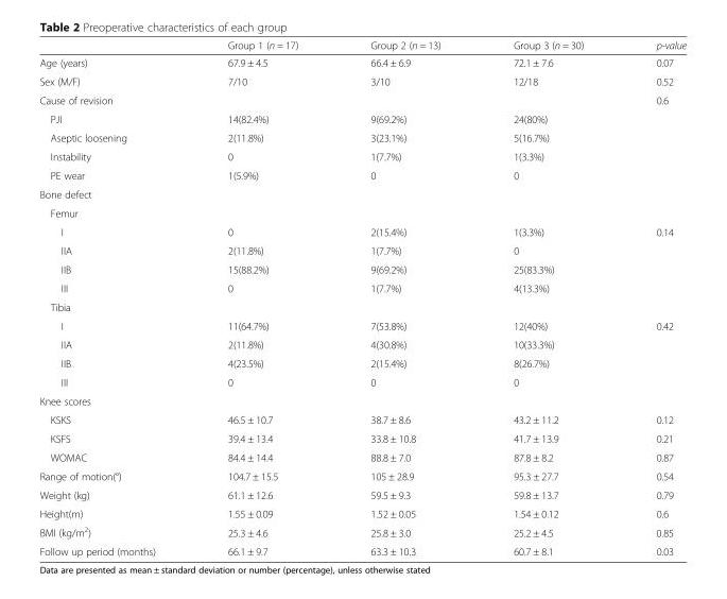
<table><thead><tr><td></td><td>Group 1 (n = 17)</td><td>Group 2 (n = 13)</td><td>Group 3 (n = 30)</td><td>p-value</td></tr></thead><tbody><tr><td>Age (years)</td><td>67.9 ± 4.5</td><td>66.4 ± 6.9</td><td>72.1 ± 7.6</td><td>0.07</td></tr><tr><td>Sex (M/F)</td><td>7/10</td><td>3/10</td><td>12/18</td><td>0.52</td></tr><tr><td colspan="4">Cause of revision</td><td rowspan="5">0.6</td></tr><tr><td>PJI</td><td>14(82.4%)</td><td>9(69.2%)</td><td>24(80%)</td></tr><tr><td>Aseptic loosening</td><td>2(11.8%)</td><td>3(23.1%)</td><td>5(16.7%)</td></tr><tr><td>Instability</td><td>0</td><td>1(7.7%)</td><td>1(3.3%)</td></tr><tr><td>PE wear</td><td>1(5.9%)</td><td>0</td><td>0</td></tr><tr><td colspan="5">Bone defect</td></tr><tr><td colspan="5">Femur</td></tr><tr><td>I</td><td>0</td><td>2(15.4%)</td><td>1(3.3%)</td><td rowspan="4">0.14</td></tr><tr><td>IIA</td><td>2(11.8%)</td><td>1(7.7%)</td><td>0</td></tr><tr><td>IIB</td><td>15(88.2%)</td><td>9(69.2%)</td><td>25(83.3%)</td></tr><tr><td>III</td><td>0</td><td>1(7.7%)</td><td>4(13.3%)</td></tr><tr><td colspan="5">Tibia</td></tr><tr><td>I</td><td>11(64.7%)</td><td>7(53.8%)</td><td>12(40%)</td><td rowspan="4">0.42</td></tr><tr><td>IIA</td><td>2(11.8%)</td><td>4(30.8%)</td><td>10(33.3%)</td></tr><tr><td>IIB</td><td>4(23.5%)</td><td>2(15.4%)</td><td>8(26.7%)</td></tr><tr><td>III</td><td>0</td><td>0</td><td>0</td></tr><tr><td colspan="5">Knee scores</td></tr><tr><td>KSKS</td><td>46.5 ± 10.7</td><td>38.7 ± 8.6</td><td>43.2 ± 11.2</td><td>0.12</td></tr><tr><td>KSFS</td><td>39.4 ± 13.4</td><td>33.8 ± 10.8</td><td>41.7 ± 13.9</td><td>0.21</td></tr><tr><td>WOMAC</td><td>84.4 ± 14.4</td><td>88.8 ± 7.0</td><td>87.8 ± 8.2</td><td>0.87</td></tr><tr><td>Range of motion(°)</td><td>104.7 ± 15.5</td><td>105 ± 28.9</td><td>95.3 ± 27.7</td><td>0.54</td></tr><tr><td>Weight (kg)</td><td>61.1 ± 12.6</td><td>59.5 ± 9.3</td><td>59.8 ± 13.7</td><td>0.79</td></tr><tr><td>Height(m)</td><td>1.55 ± 0.09</td><td>1.52 ± 0.05</td><td>1.54 ± 0.12</td><td>0.6</td></tr><tr><td>BMI (kg/m<sup>2</sup>)</td><td>25.3 ± 4.6</td><td>25.8 ± 3.0</td><td>25.2 ± 4.5</td><td>0.85</td></tr><tr><td>Follow up period (months)</td><td>66.1 ± 9.7</td><td>63.3 ± 10.3</td><td>60.7 ± 8.1</td><td>0.03</td></tr></tbody></table>